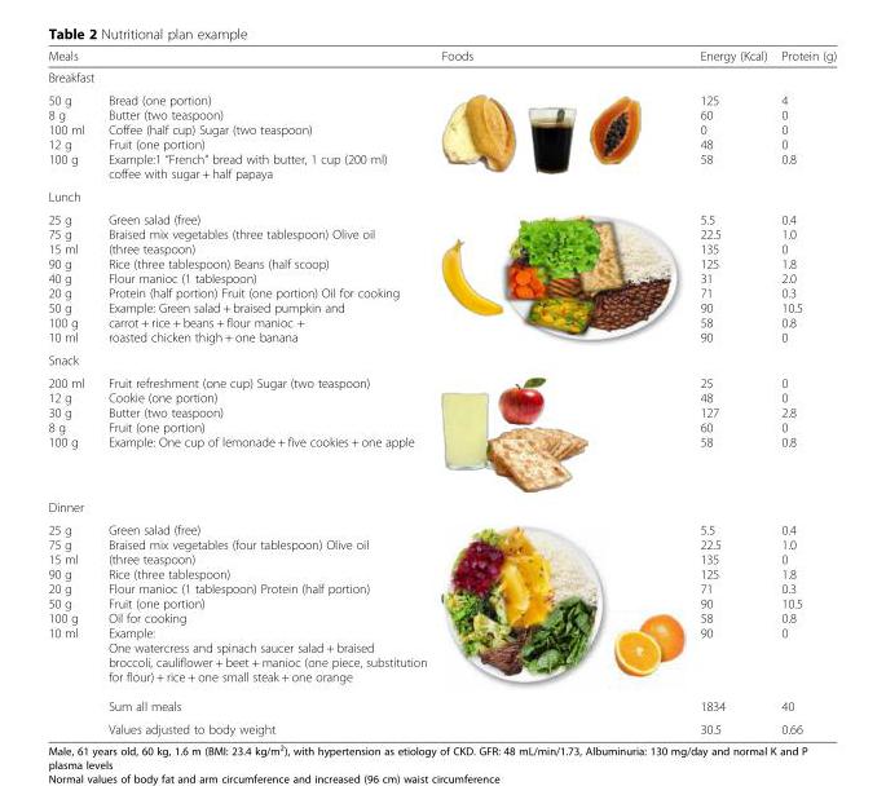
<table><thead><tr><td>Meals</td><td></td><td>Foods</td><td>Energy (Kcal)</td><td>Protein (g)</td></tr></thead><tbody><tr><td colspan="5">Breakfast</td></tr><tr><td>50 g 8 g 100 ml 12 g 100 g</td><td>Bread (one portion) Butter (two teaspoon) Coffee (half cup) Sugar (two teaspoon) Fruit (one portion) Example:1 “French” bread with butter, 1 cup (200 ml) coffee with sugar + half papaya</td><td></td><td>125 60 0 48 58</td><td>4 0 0 0 0.8</td></tr><tr><td colspan="5">Lunch</td></tr><tr><td>25 g 75 g 15 ml 90 g 40 g 20 g 50 g 100 g 10 ml</td><td>Green salad (free) Braised mix vegetables (three tablespoon) Olive oil (three teaspoon) Rice (three tablespoon) Beans (half scoop) Flour manioc (1 tablespoon) Protein (half portion) Fruit (one portion) Oil for cooking Example: Green salad + braised pumpkin and carrot + rice + beans + flour manioc + roasted chicken thigh + one banana</td><td></td><td>5.5 22.5 135 125 31 71 90 58 90</td><td>0.4 1.0 0 1.8 2.0 0.3 10.5 0.8 0</td></tr><tr><td colspan="5">Snack</td></tr><tr><td>200 ml 12 g 30 g 8 g 100 g</td><td>Fruit refreshment (one cup) Sugar (two teaspoon) Cookie (one portion) Butter (two teaspoon) Fruit (one portion) Example: One cup of lemonade + five cookies + one apple</td><td></td><td>25 48 127 60 58</td><td>0 0 2.8 0 0.8</td></tr><tr><td colspan="5">Dinner</td></tr><tr><td rowspan="3">25 g 75 g 15 ml 90 g 20 g 50 g 100 g 10 ml</td><td>Green salad (free) Braised mix vegetables (four tablespoon) Olive oil (three teaspoon) Rice (three tablespoon) Flour manioc (1 tablespoon) Protein (half portion) Fruit (one portion) Oil for cooking Example: One watercress and spinach saucer salad + braised broccoli, cauliflower + beet + manioc (one piece, substitution for flour) + rice + one small steak + one orange</td><td></td><td>5.5 22.5 135 125 71 90 58 90</td><td>0.4 1.0 0 1.8 0.3 10.5 0.8 0</td></tr><tr><td>Sum all meals</td><td></td><td>1834</td><td>40</td></tr><tr><td>Values adjusted to body weight</td><td></td><td>30.5</td><td>0.66</td></tr></tbody></table>